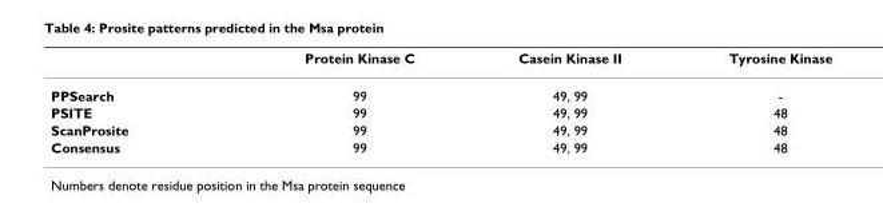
<table><thead><tr><td></td><td>Protein Kinase C</td><td>Casein Kinase II</td><td>Tyrosine Kinase</td></tr></thead><tbody><tr><td>PPSearch</td><td>99</td><td>49, 99</td><td>-</td></tr><tr><td>PSITE</td><td>99</td><td>49, 99</td><td>48</td></tr><tr><td>ScanProsite</td><td>99</td><td>49, 99</td><td>48</td></tr><tr><td>Consensus</td><td>99</td><td>49, 99</td><td>48</td></tr></tbody></table>